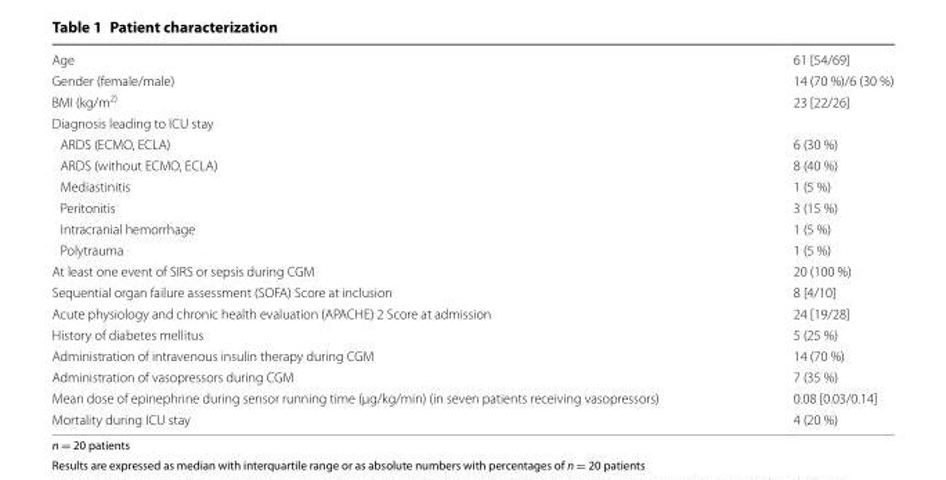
<table><tbody><tr><td>Age</td><td>61 [54/69]</td></tr><tr><td>Gender (female/male)</td><td>14 (70 %)/6 (30 %)</td></tr><tr><td>BMI (kg/m<sup>2)</sup></td><td>23 [22/26]</td></tr><tr><td colspan="2">Diagnosis leading to ICU stay</td></tr><tr><td>ARDS (ECMO, ECLA)</td><td>6 (30 %)</td></tr><tr><td>ARDS (without ECMO, ECLA)</td><td>8 (40 %)</td></tr><tr><td>Mediastinitis</td><td>1 (5 %)</td></tr><tr><td>Peritonitis</td><td>3 (15 %)</td></tr><tr><td>Intracranial hemorrhage</td><td>1 (5 %)</td></tr><tr><td>Polytrauma</td><td>1 (5 %)</td></tr><tr><td>At least one event of SIRS or sepsis during CGM</td><td>20 (100 %)</td></tr><tr><td>Sequential organ failure assessment (SOFA) Score at inclusion</td><td>8 [4/10]</td></tr><tr><td>Acute physiology and chronic health evaluation (APACHE) 2 Score at admission</td><td>24 [19/28]</td></tr><tr><td>History of diabetes mellitus</td><td>5 (25 %)</td></tr><tr><td>Administration of intravenous insulin therapy during CGM</td><td>14 (70 %)</td></tr><tr><td>Administration of vasopressors during CGM</td><td>7 (35 %)</td></tr><tr><td>Mean dose of epinephrine during sensor running time (µg/kg/min) (in seven patients receiving vasopressors)</td><td>0.08 [0.03/0.14]</td></tr><tr><td>Mortality during ICU stay</td><td>4 (20 %)</td></tr></tbody></table>